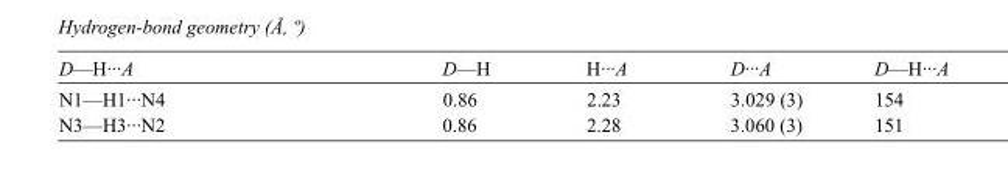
<table><tbody><tr><td>D—H···A</td><td>D—H</td><td>H···A</td><td>D···A</td><td>D—H···A</td></tr><tr><td>N1—H1···N4</td><td>0.86</td><td>2.23</td><td>3.029 (3)</td><td>154</td></tr><tr><td>N3—H3···N2</td><td>0.86</td><td>2.28</td><td>3.060 (3)</td><td>151</td></tr></tbody></table>